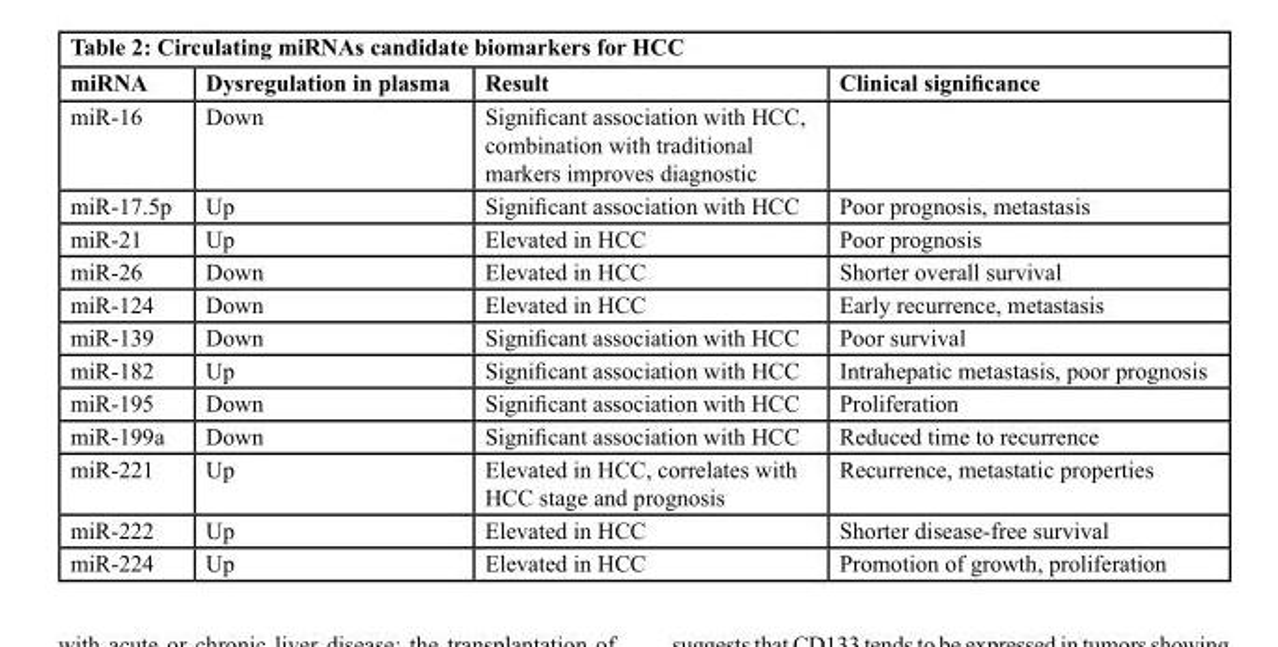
<table><thead><tr><td>miRNA</td><td>Dysregulation in plasma</td><td>Result</td><td>Clinical significance</td></tr></thead><tbody><tr><td>miR-16</td><td>Down</td><td>Significant association with HCC, combination with traditional markers improves diagnostic</td><td></td></tr><tr><td>miR-17.5p</td><td>Up</td><td>Significant association with HCC</td><td>Poor prognosis, metastasis</td></tr><tr><td>miR-21</td><td>Up</td><td>Elevated in HCC</td><td>Poor prognosis</td></tr><tr><td>miR-26</td><td>Down</td><td>Elevated in HCC</td><td>Shorter overall survival</td></tr><tr><td>miR-124</td><td>Down</td><td>Elevated in HCC</td><td>Early recurrence, metastasis</td></tr><tr><td>miR-139</td><td>Down</td><td>Significant association with HCC</td><td>Poor survival</td></tr><tr><td>miR-182</td><td>Up</td><td>Significant association with HCC</td><td>Intrahepatic metastasis, poor prognosis</td></tr><tr><td>miR-195</td><td>Down</td><td>Significant association with HCC</td><td>Proliferation</td></tr><tr><td>miR-199a</td><td>Down</td><td>Significant association with HCC</td><td>Reduced time to recurrence</td></tr><tr><td>miR-221</td><td>Up</td><td>Elevated in HCC, correlates with HCC stage and prognosis</td><td>Recurrence, metastatic properties</td></tr><tr><td>miR-222</td><td>Up</td><td>Elevated in HCC</td><td>Shorter disease-free survival</td></tr><tr><td>miR-224</td><td>Up</td><td>Elevated in HCC</td><td>Promotion of growth, proliferation</td></tr></tbody></table>